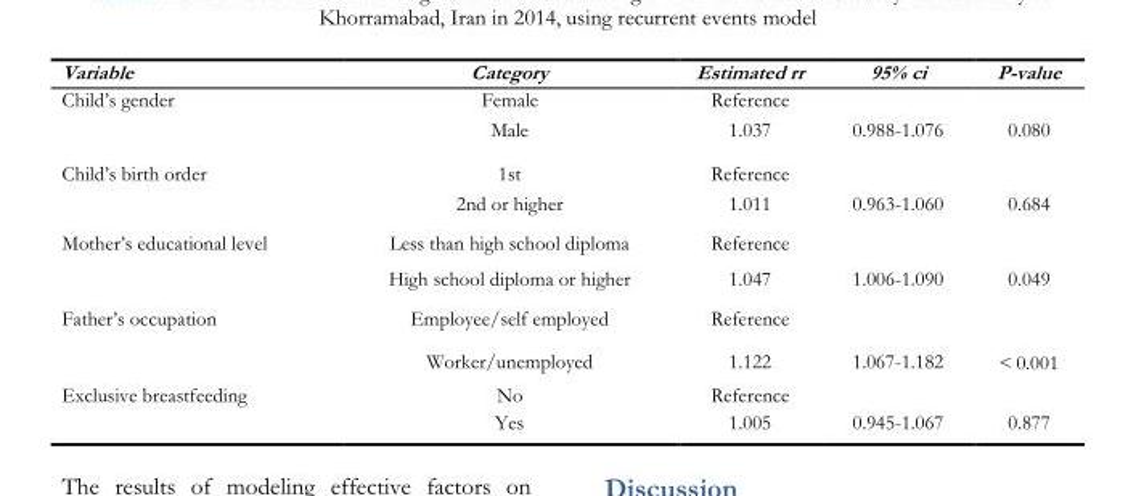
<table><thead><tr><td>Variable</td><td>Category</td><td>Estimated rr</td><td>95% ci</td><td>P-value</td></tr></thead><tbody><tr><td rowspan="2">Child’s gender</td><td>Female</td><td>Reference</td><td></td><td></td></tr><tr><td>Male</td><td>1.037</td><td>0.988-1.076</td><td>0.080</td></tr><tr><td rowspan="2">Child’s birth order</td><td>1st</td><td>Reference</td><td></td><td></td></tr><tr><td>2nd or higher</td><td>1.011</td><td>0.963-1.060</td><td>0.684</td></tr><tr><td rowspan="2">Mother’s educational level</td><td>Less than high school diploma</td><td>Reference</td><td></td><td></td></tr><tr><td>High school diploma or higher</td><td>1.047</td><td>1.006-1.090</td><td>0.049</td></tr><tr><td rowspan="2">Father’s occupation</td><td>Employee/self employed</td><td>Reference</td><td></td><td></td></tr><tr><td>Worker/unemployed</td><td>1.122</td><td>1.067-1.182</td><td>&gt; 0.001</td></tr><tr><td rowspan="2">Exclusive breastfeeding</td><td>No</td><td>Reference</td><td></td><td></td></tr><tr><td>Yes</td><td>1.005</td><td>0.945-1.067</td><td>0.877</td></tr></tbody></table>